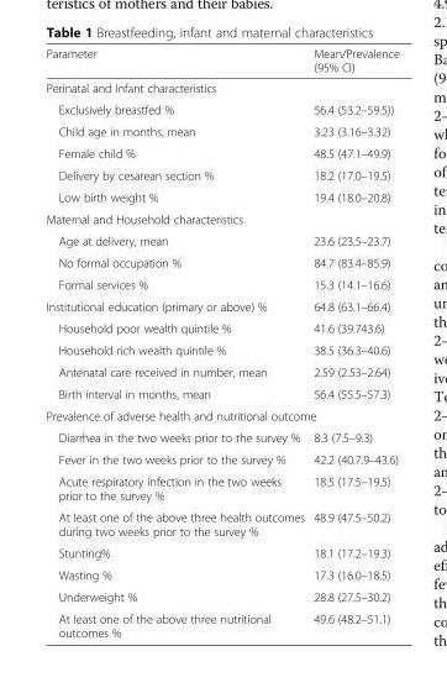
<table><thead><tr><td>Parameter</td><td>Mean/Prevalence (95% CI)</td></tr></thead><tbody><tr><td colspan="2">Perinatal and Infant characteristics</td></tr><tr><td>Exclusively breastfed %</td><td>56.4 (53.2–59.5))</td></tr><tr><td>Child age in months, mean</td><td>3.23 (3.16–3.32)</td></tr><tr><td>Female child %</td><td>48.5 (47.1–49.9)</td></tr><tr><td>Delivery by cesarean section %</td><td>18.2 (17.0–19.5)</td></tr><tr><td>Low birth weight %</td><td>19.4 (18.0–20.8)</td></tr><tr><td colspan="2">Maternal and Household characteristics</td></tr><tr><td>Age at delivery, mean</td><td>23.6 (23.5–23.7)</td></tr><tr><td>No formal occupation %</td><td>84.7 (83.4–85.9)</td></tr><tr><td>Formal services %</td><td>15.3 (14.1–16.6)</td></tr><tr><td>Institutional education (primary or above) %</td><td>64.8 (63.1–66.4)</td></tr><tr><td>Household poor wealth quintile %</td><td>41.6 (39.743.6)</td></tr><tr><td>Household rich wealth quintile %</td><td>38.5 (36.3–40.6)</td></tr><tr><td>Antenatal care received in number, mean</td><td>2.59 (2.53–2.64)</td></tr><tr><td>Birth interval in months, mean</td><td>56.4 (55.5–57.3)</td></tr><tr><td colspan="2">Prevalence of adverse health and nutritional outcome</td></tr><tr><td>Diarrhea in the two weeks prior to the survey %</td><td>8.3 (7.5–9.3)</td></tr><tr><td>Fever in the two weeks prior to the survey %</td><td>42.2 (40.7.9–43.6)</td></tr><tr><td>Acute respiratory infection in the two weeks prior to the survey %</td><td>18.5 (17.5–19.5)</td></tr><tr><td>At least one of the above three health outcomes during two weeks prior to the survey %</td><td>48.9 (47.5–50.2)</td></tr><tr><td>Stunting%</td><td>18.1 (17.2–19.3)</td></tr><tr><td>Wasting %</td><td>17.3 (16.0–18.5)</td></tr><tr><td>Underweight %</td><td>28.8 (27.5–30.2)</td></tr><tr><td>At least one of the above three nutritional outcomes %</td><td>49.6 (48.2–51.1)</td></tr></tbody></table>